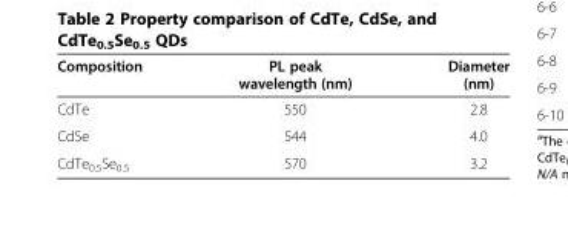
<table><thead><tr><td>Composition</td><td>PL peak wavelength (nm)</td><td>Diameter (nm)</td></tr></thead><tbody><tr><td>CdTe</td><td>550</td><td>2.8</td></tr><tr><td>CdSe</td><td>544</td><td>4.0</td></tr><tr><td>CdTe<sub>0.5</sub>Se<sub>0.5</sub></td><td>570</td><td>3.2</td></tr></tbody></table>